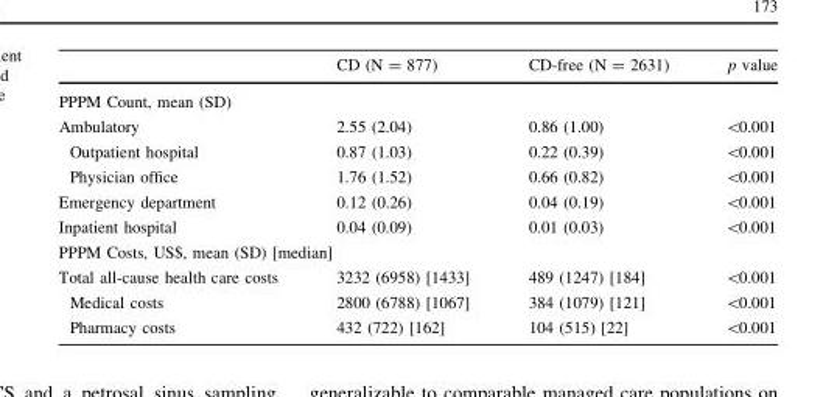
<table><thead><tr><td></td><td>CD (N = 877)</td><td>CD-free (N = 2631)</td><td>p value</td></tr></thead><tbody><tr><td colspan="4">PPPM Count, mean (SD)</td></tr><tr><td>Ambulatory</td><td>2.55 (2.04)</td><td>0.86 (1.00)</td><td>&lt;0.001</td></tr><tr><td>Outpatient hospital</td><td>0.87 (1.03)</td><td>0.22 (0.39)</td><td>&lt;0.001</td></tr><tr><td>Physician office</td><td>1.76 (1.52)</td><td>0.66 (0.82)</td><td>&lt;0.001</td></tr><tr><td>Emergency department</td><td>0.12 (0.26)</td><td>0.04 (0.19)</td><td>&lt;0.001</td></tr><tr><td>Inpatient hospital</td><td>0.04 (0.09)</td><td>0.01 (0.03)</td><td>&lt;0.001</td></tr><tr><td colspan="4">PPPM Costs, US$, mean (SD) [median]</td></tr><tr><td>Total all-cause health care costs</td><td>3232 (6958) [1433]</td><td>489 (1247) [184]</td><td>&lt;0.001</td></tr><tr><td>Medical costs</td><td>2800 (6788) [1067]</td><td>384 (1079) [121]</td><td>&lt;0.001</td></tr><tr><td>Pharmacy costs</td><td>432 (722) [162]</td><td>104 (515) [22]</td><td>&lt;0.001</td></tr></tbody></table>